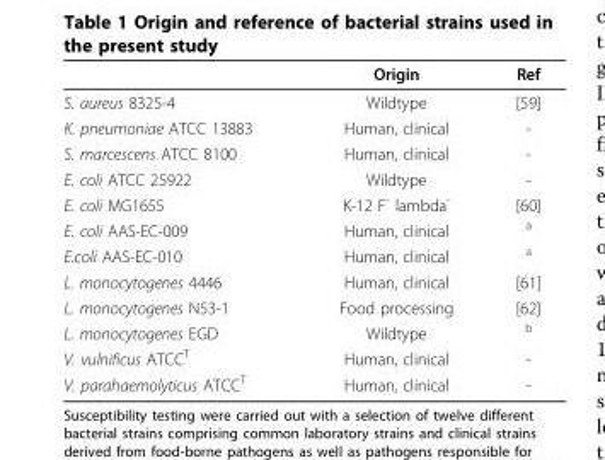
<table><thead><tr><td></td><td>Origin</td><td>Ref</td></tr></thead><tbody><tr><td>S. aureus 8325-4</td><td>Wildtype</td><td>[59]</td></tr><tr><td>K. pneumoniae ATCC 13883</td><td>Human, clinical</td><td>-</td></tr><tr><td>S. marcescens ATCC 8100</td><td>Human, clinical</td><td>-</td></tr><tr><td>E. coli ATCC 25922</td><td>Wildtype</td><td>-</td></tr><tr><td>E. coli MG1655</td><td>K-12 F<sup>-</sup> lambda<sup>-</sup></td><td>[60]</td></tr><tr><td>E. coli AAS-EC-009</td><td>Human, clinical</td><td><sup>a</sup></td></tr><tr><td>E.coli AAS-EC-010</td><td>Human, clinical</td><td><sup>a</sup></td></tr><tr><td>L. monocytogenes 4446</td><td>Human, clinical</td><td>[61]</td></tr><tr><td>L. monocytogenes N53-1</td><td>Food processing</td><td>[62]</td></tr><tr><td>L. monocytogenes EGD</td><td>Wildtype</td><td><sup>b</sup></td></tr><tr><td>V. vulnificus ATCC<sup>T</sup></td><td>Human, clinical</td><td>-</td></tr><tr><td>V. parahaemolyticus ATCC<sup>T</sup></td><td>Human, clinical</td><td>-</td></tr></tbody></table>